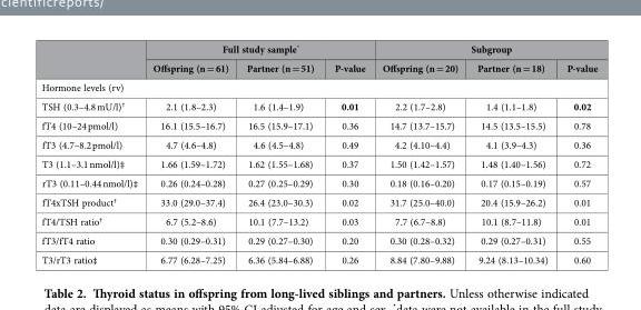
<table><thead><tr><td rowspan="2"></td><td colspan="3">Full study sample*</td><td colspan="3">Subgroup</td></tr><tr><td>Offspring (n = 61)</td><td>Partner (n = 51)</td><td>P-value</td><td>Offspring (n = 20)</td><td>Partner (n = 18)</td><td>P-value</td></tr></thead><tbody><tr><td colspan="7">Hormone levels (rv)</td></tr><tr><td>TSH (0.3–4.8 mU/l)†</td><td>2.1 (1.8–2.3)</td><td>1.6 (1.4–1.9)</td><td>0.01</td><td>2.2 (1.7–2.8)</td><td>1.4 (1.1–1.8)</td><td>0.02</td></tr><tr><td>fT4 (10–24 pmol/l)</td><td>16.1 (15.5–16.7)</td><td>16.5 (15.9–17.1)</td><td>0.36</td><td>14.7 (13.7–15.7)</td><td>14.5 (13.5–15.5)</td><td>0.78</td></tr><tr><td>fT3 (4.7–8.2 pmol/l)</td><td>4.7 (4.6–4.8)</td><td>4.6 (4.5–4.8)</td><td>0.49</td><td>4.2 (4.10–4.4)</td><td>4.1 (3.9–4.3)</td><td>0.36</td></tr><tr><td>T3 (1.1–3.1 nmol/l)‡</td><td>1.66 (1.59–1.72)</td><td>1.62 (1.55–1.68)</td><td>0.37</td><td>1.50 (1.42–1.57)</td><td>1.48 (1.40–1.56)</td><td>0.72</td></tr><tr><td>rT3 (0.11–0.44 nmol/l)‡</td><td>0.26 (0.24–0.28)</td><td>0.27 (0.25–0.29)</td><td>0.30</td><td>0.18 (0.16–0.20)</td><td>0.17 (0.15–0.19)</td><td>0.57</td></tr><tr><td>fT4xTSH product†</td><td>33.0 (29.0–37.4)</td><td>26.4 (23.0–30.3)</td><td>0.02</td><td>31.7 (25.0–40.0)</td><td>20.4 (15.9–26.2)</td><td>0.01</td></tr><tr><td>fT4/TSH ratio†</td><td>6.7 (5.2–8.6)</td><td>10.1 (7.7–13.2)</td><td>0.03</td><td>7.7 (6.7–8.8)</td><td>10.1 (8.7–11.8)</td><td>0.01</td></tr><tr><td>fT3/fT4 ratio</td><td>0.30 (0.29–0.31)</td><td>0.29 (0.27–0.30)</td><td>0.20</td><td>0.30 (0.28–0.32)</td><td>0.29 (0.27–0.31)</td><td>0.55</td></tr><tr><td>T3/rT3 ratio‡</td><td>6.77 (6.28–7.25)</td><td>6.36 (5.84–6.88)</td><td>0.26</td><td>8.84 (7.80–9.88)</td><td>9.24 (8.13–10.34)</td><td>0.60</td></tr></tbody></table>